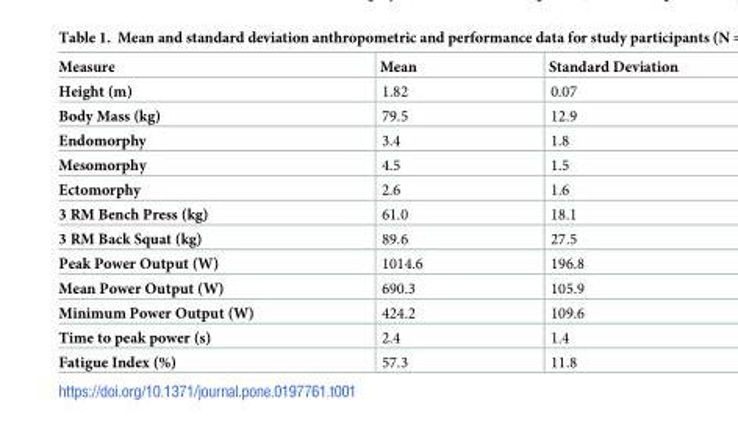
<table><thead><tr><td>Measure</td><td>Mean</td><td>Standard Deviation</td></tr></thead><tbody><tr><td>Height (m)</td><td>1.82</td><td>0.07</td></tr><tr><td>Body Mass (kg)</td><td>79.5</td><td>12.9</td></tr><tr><td>Endomorphy</td><td>3.4</td><td>1.8</td></tr><tr><td>Mesomorphy</td><td>4.5</td><td>1.5</td></tr><tr><td>Ectomorphy</td><td>2.6</td><td>1.6</td></tr><tr><td>3 RM Bench Press (kg)</td><td>61.0</td><td>18.1</td></tr><tr><td>3 RM Back Squat (kg)</td><td>89.6</td><td>27.5</td></tr><tr><td>Peak Power Output (W)</td><td>1014.6</td><td>196.8</td></tr><tr><td>Mean Power Output (W)</td><td>690.3</td><td>105.9</td></tr><tr><td>Minimum Power Output (W)</td><td>424.2</td><td>109.6</td></tr><tr><td>Time to peak power (s)</td><td>2.4</td><td>1.4</td></tr><tr><td>Fatigue Index (%)</td><td>57.3</td><td>11.8</td></tr></tbody></table>